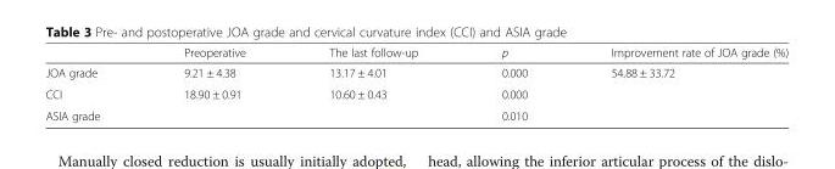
<table><thead><tr><td></td><td>Preoperative</td><td>The last follow-up</td><td>p</td><td>Improvement rate of JOA grade (%)</td></tr></thead><tbody><tr><td>JOA grade</td><td>9.21 ± 4.38</td><td>13.17 ± 4.01</td><td>0.000</td><td>54.88 ± 33.72</td></tr><tr><td>CCI</td><td>18.90 ± 0.91</td><td>10.60 ± 0.43</td><td>0.000</td><td></td></tr><tr><td>ASIA grade</td><td></td><td></td><td>0.010</td><td></td></tr></tbody></table>